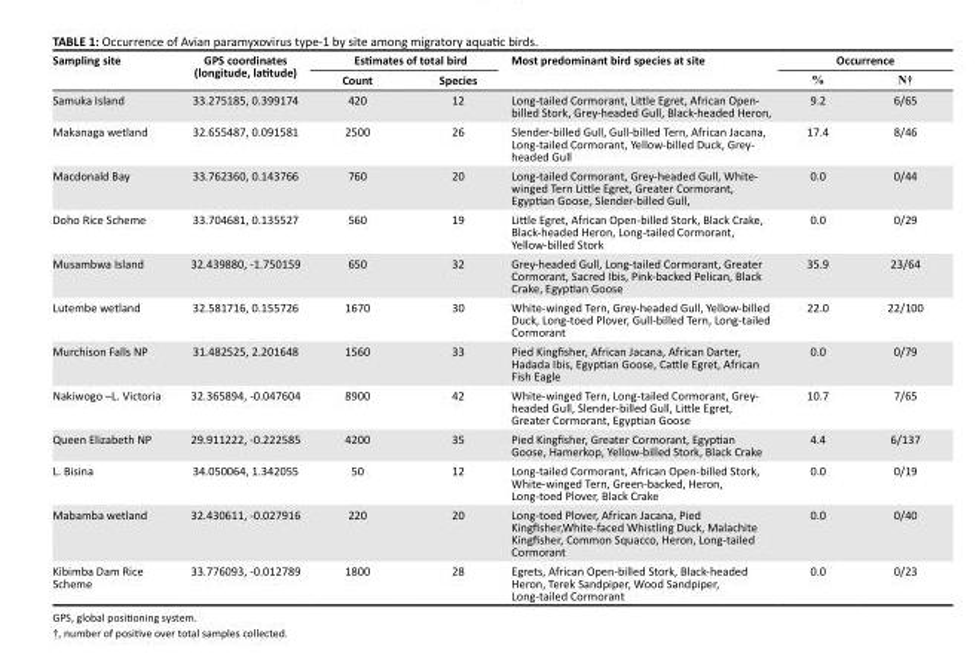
<table><thead><tr><td rowspan="2">Sampling site</td><td rowspan="2">GPS coordinates (longitude, latitude)</td><td colspan="2">Estimates of total bird</td><td rowspan="2">Most predominant bird species at site</td><td colspan="2">Occurrence</td></tr><tr><td>Count</td><td>Species</td><td>%</td><td>N†</td></tr></thead><tbody><tr><td>Samuka Island</td><td>33.275185, 0.399174</td><td>420</td><td>12</td><td>Long-tailed Cormorant, Little Egret, African Open- billed Stork, Grey-headed Gull, Black-headed Heron,</td><td>9.2</td><td>6/65</td></tr><tr><td>Makanaga wetland</td><td>32.655487, 0.091581</td><td>2500</td><td>26</td><td>Slender-billed Gull, Gull-billed Tern, African Jacana, Long-tailed Cormorant, Yellow-billed Duck, Grey- headed Gull</td><td>17.4</td><td>8/46</td></tr><tr><td>Macdonald Bay</td><td>33.762360, 0.143766</td><td>760</td><td>20</td><td>Long-tailed Cormorant, Grey-headed Gull, White- winged Tern Little Egret, Greater Cormorant, Egyptian Goose, Slender-billed Gull,</td><td>0.0</td><td>0/44</td></tr><tr><td>Doho Rice Scheme</td><td>33.704681, 0.135527</td><td>560</td><td>19</td><td>Little Egret, African Open-billed Stork, Black Crake, Black-headed Heron, Long-tailed Cormorant, Yellow-billed Stork</td><td>0.0</td><td>0/29</td></tr><tr><td>Musambwa Island</td><td>32.439880, -1.750159</td><td>650</td><td>32</td><td>Grey-headed Gull, Long-tailed Cormorant, Greater Cormorant, Sacred Ibis, Pink-backed Pelican, Black Crake, Egyptian Goose</td><td>35.9</td><td>23/64</td></tr><tr><td>Lutembe wetland</td><td>32.581716, 0.155726</td><td>1670</td><td>30</td><td>White-winged Tern, Grey-headed Gull, Yellow-billed Duck, Long-toed Plover, Gull-billed Tern, Long-tailed Cormorant</td><td>22.0</td><td>22/100</td></tr><tr><td>Murchison Falls NP</td><td>31.482525, 2.201648</td><td>1560</td><td>33</td><td>Pied Kingfisher, African Jacana, African Darter, Hadada Ibis, Egyptian Goose, Cattle Egret, African Fish Eagle</td><td>0.0</td><td>0/79</td></tr><tr><td>Nakiwogo –L. Victoria</td><td>32.365894, -0.047604</td><td>8900</td><td>42</td><td>White-winged Tern, Long-tailed Cormorant, Grey- headed Gull, Slender-billed Gull, Little Egret, Greater Cormorant, Egyptian Goose</td><td>10.7</td><td>7/65</td></tr><tr><td>Queen Elizabeth NP</td><td>29.911222, -0.222585</td><td>4200</td><td>35</td><td>Pied Kingfisher, Greater Cormorant, Egyptian Goose, Hamerkop, Yellow-billed Stork, Black Crake</td><td>4.4</td><td>6/137</td></tr><tr><td>L. Bisina</td><td>34.050064, 1.342055</td><td>50</td><td>12</td><td>Long-tailed Cormorant, African Open-billed Stork, White-winged Tern, Green-backed, Heron, Long-toed Plover, Black Crake</td><td>0.0</td><td>0/19</td></tr><tr><td>Mabamba wetland</td><td>32.430611, -0.027916</td><td>220</td><td>20</td><td>Long-toed Plover, African Jacana, Pied Kingfisher,White-faced Whistling Duck, Malachite Kingfisher, Common Squacco, Heron, Long-tailed Cormorant</td><td>0.0</td><td>0/40</td></tr><tr><td>Kibimba Dam Rice Scheme</td><td>33.776093, -0.012789</td><td>1800</td><td>28</td><td>Egrets, African Open-billed Stork, Black-headed Heron, Terek Sandpiper, Wood Sandpiper, Long-tailed Cormorant</td><td>0.0</td><td>0/23</td></tr></tbody></table>